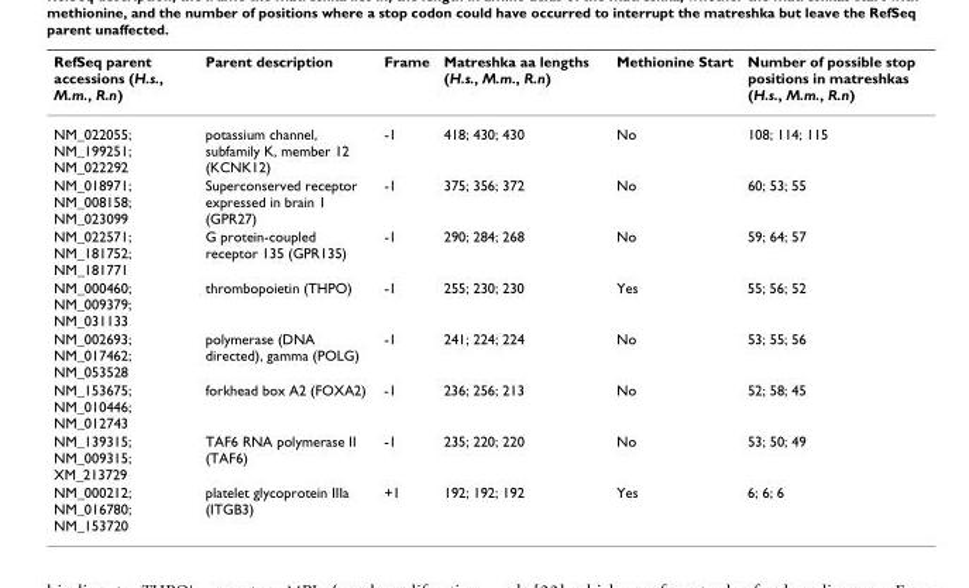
<table><thead><tr><td>RefSeq parent accessions (H.s., M.m., R.n)</td><td>Parent description</td><td>Frame</td><td>Matreshka aa lengths (H.s., M.m., R.n)</td><td>Methionine Start</td><td>Number of possible stop positions in matreshkas (H.s., M.m., R.n)</td></tr></thead><tbody><tr><td>NM_022055; NM_199251; NM_022292</td><td>potassium channel, subfamily K, member 12 (KCNK12)</td><td>-1</td><td>418; 430; 430</td><td>No</td><td>108; 114; 115</td></tr><tr><td>NM_018971; NM_008158; NM_023099</td><td>Superconserved receptor expressed in brain 1 (GPR27)</td><td>-1</td><td>375; 356; 372</td><td>No</td><td>60; 53; 55</td></tr><tr><td>NM_022571; NM_181752; NM_181771</td><td>G protein-coupled receptor 135 (GPR135)</td><td>-1</td><td>290; 284; 268</td><td>No</td><td>59; 64; 57</td></tr><tr><td>NM_000460; NM_009379; NM_031133</td><td>thrombopoietin (THPO)</td><td>-1</td><td>255; 230; 230</td><td>Yes</td><td>55; 56; 52</td></tr><tr><td>NM_002693; NM_017462; NM_053528</td><td>polymerase (DNA directed), gamma (POLG)</td><td>-1</td><td>241; 224; 224</td><td>No</td><td>53; 55; 56</td></tr><tr><td>NM_153675; NM_010446; NM_012743</td><td>forkhead box A2 (FOXA2)</td><td>-1</td><td>236; 256; 213</td><td>No</td><td>52; 58; 45</td></tr><tr><td>NM_139315; NM_009315; XM_213729</td><td>TAF6 RNA polymerase II (TAF6)</td><td>-1</td><td>235; 220; 220</td><td>No</td><td>53; 50; 49</td></tr><tr><td>NM_000212; NM_016780; NM_153720</td><td>platelet glycoprotein IIIa (ITGB3)</td><td>+1</td><td>192; 192; 192</td><td>Yes</td><td>6; 6; 6</td></tr></tbody></table>